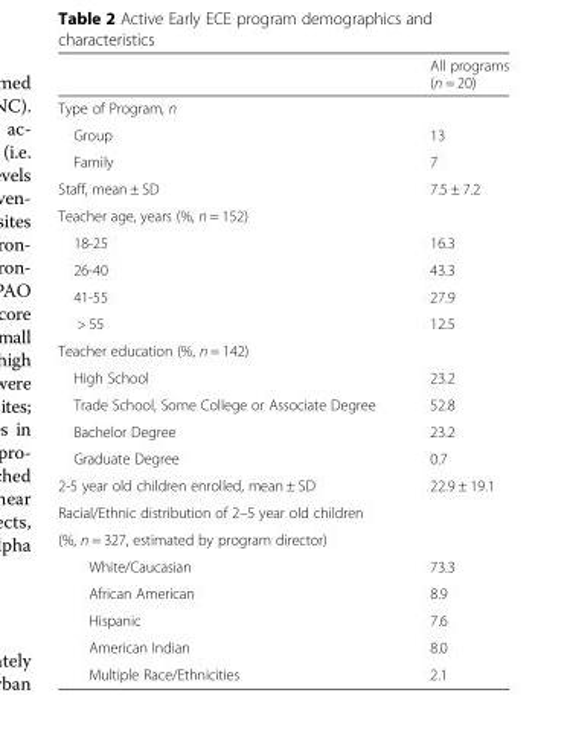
<table><thead><tr><td></td><td>All programs (n = 20)</td></tr></thead><tbody><tr><td colspan="2">Type of Program, n</td></tr><tr><td>Group</td><td>13</td></tr><tr><td>Family</td><td>7</td></tr><tr><td>Staff, mean ± SD</td><td>7.5 ± 7.2</td></tr><tr><td colspan="2">Teacher age, years (%, n = 152)</td></tr><tr><td>18-25</td><td>16.3</td></tr><tr><td>26-40</td><td>43.3</td></tr><tr><td>41-55</td><td>27.9</td></tr><tr><td>&gt; 55</td><td>12.5</td></tr><tr><td colspan="2">Teacher education (%, n = 142)</td></tr><tr><td>High School</td><td>23.2</td></tr><tr><td>Trade School, Some College or Associate Degree</td><td>52.8</td></tr><tr><td>Bachelor Degree</td><td>23.2</td></tr><tr><td>Graduate Degree</td><td>0.7</td></tr><tr><td>2-5 year old children enrolled, mean ± SD</td><td>22.9 ± 19.1</td></tr><tr><td colspan="2">Racial/Ethnic distribution of 2–5 year old children</td></tr><tr><td colspan="2">(%, n = 327, estimated by program director)</td></tr><tr><td>White/Caucasian</td><td>73.3</td></tr><tr><td>African American</td><td>8.9</td></tr><tr><td>Hispanic</td><td>7.6</td></tr><tr><td>American Indian</td><td>8.0</td></tr><tr><td>Multiple Race/Ethnicities</td><td>2.1</td></tr></tbody></table>